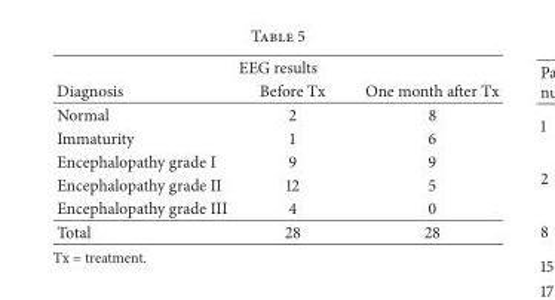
<table><thead><tr><td colspan="3">EEG results</td></tr><tr><td>Diagnosis</td><td>Before Tx</td><td>One month after Tx</td></tr></thead><tbody><tr><td>Normal</td><td>2</td><td>8</td></tr><tr><td>Immaturity</td><td>1</td><td>6</td></tr><tr><td>Encephalopathy grade I</td><td>9</td><td>9</td></tr><tr><td>Encephalopathy grade II</td><td>12</td><td>5</td></tr><tr><td>Encephalopathy grade III</td><td>4</td><td>0</td></tr><tr><td>Total</td><td>28</td><td>28</td></tr></tbody></table>